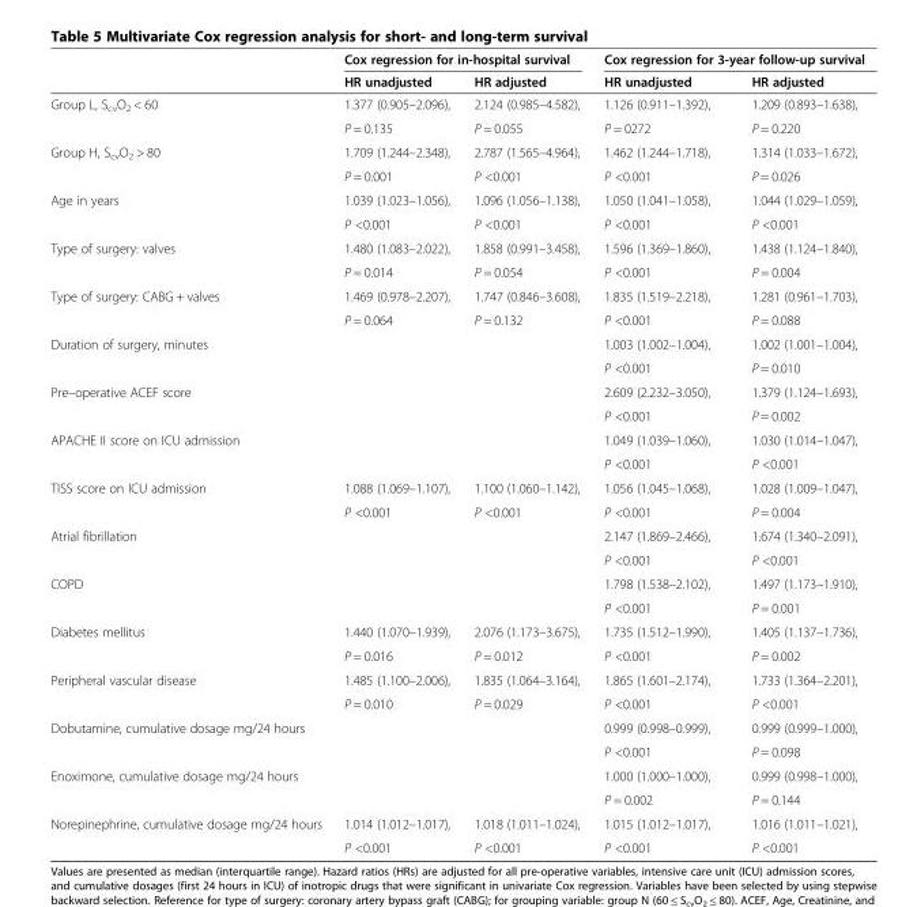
<table><thead><tr><td rowspan="2"></td><td colspan="2">Cox regression for in-hospital survival</td><td colspan="2">Cox regression for 3-year follow-up survival</td></tr><tr><td>HR unadjusted</td><td>HR adjusted</td><td>HR unadjusted</td><td>HR adjusted</td></tr></thead><tbody><tr><td rowspan="2">Group L, S<sub>cv</sub>O<sub>2</sub> &lt; 60</td><td>1.377 (0.905–2.096),</td><td>2.124 (0.985–4.582),</td><td>1.126 (0.911–1.392),</td><td>1.209 (0.893–1.638),</td></tr><tr><td>P = 0.135</td><td>P = 0.055</td><td>P = 0272</td><td>P = 0.220</td></tr><tr><td rowspan="2">Group H, S<sub>cv</sub>O<sub>2</sub> &gt; 80</td><td>1.709 (1.244–2.348),</td><td>2.787 (1.565–4.964),</td><td>1.462 (1.244–1.718),</td><td>1.314 (1.033–1.672),</td></tr><tr><td>P = 0.001</td><td>P &lt;0.001</td><td>P &lt;0.001</td><td>P = 0.026</td></tr><tr><td rowspan="2">Age in years</td><td>1.039 (1.023–1.056),</td><td>1.096 (1.056–1.138),</td><td>1.050 (1.041–1.058),</td><td>1.044 (1.029–1.059),</td></tr><tr><td>P &lt;0.001</td><td>P &lt;0.001</td><td>P &lt;0.001</td><td>P &lt;0.001</td></tr><tr><td rowspan="2">Type of surgery: valves</td><td>1.480 (1.083–2.022),</td><td>1.858 (0.991–3.458),</td><td>1.596 (1.369–1.860),</td><td>1.438 (1.124–1.840),</td></tr><tr><td>P = 0.014</td><td>P = 0.054</td><td>P &lt;0.001</td><td>P = 0.004</td></tr><tr><td rowspan="2">Type of surgery: CABG + valves</td><td>1.469 (0.978–2.207),</td><td>1.747 (0.846–3.608),</td><td>1.835 (1.519–2.218),</td><td>1.281 (0.961–1.703),</td></tr><tr><td>P = 0.064</td><td>P = 0.132</td><td>P &lt;0.001</td><td>P = 0.088</td></tr><tr><td rowspan="2">Duration of surgery, minutes</td><td rowspan="2"></td><td rowspan="2"></td><td>1.003 (1.002–1.004),</td><td>1.002 (1.001–1.004),</td></tr><tr><td>P &lt;0.001</td><td>P = 0.010</td></tr><tr><td rowspan="2">Pre–operative ACEF score</td><td rowspan="2"></td><td rowspan="2"></td><td>2.609 (2.232–3.050),</td><td>1.379 (1.124–1.693),</td></tr><tr><td>P &lt;0.001</td><td>P = 0.002</td></tr><tr><td rowspan="2">APACHE II score on ICU admission</td><td rowspan="2"></td><td rowspan="2"></td><td>1.049 (1.039–1.060),</td><td>1.030 (1.014–1.047),</td></tr><tr><td>P &lt;0.001</td><td>P &lt;0.001</td></tr><tr><td rowspan="2">TISS score on ICU admission</td><td>1.088 (1.069–1.107),</td><td>1.100 (1.060–1.142),</td><td>1.056 (1.045–1.068),</td><td>1.028 (1.009–1.047),</td></tr><tr><td>P &lt;0.001</td><td>P &lt;0.001</td><td>P &lt;0.001</td><td>P = 0.004</td></tr><tr><td rowspan="2">Atrial fibrillation</td><td rowspan="2"></td><td rowspan="2"></td><td>2.147 (1.869–2.466),</td><td>1.674 (1.340–2.091),</td></tr><tr><td>P &lt;0.001</td><td>P &lt;0.001</td></tr><tr><td rowspan="2">COPD</td><td rowspan="2"></td><td rowspan="2"></td><td>1.798 (1.538–2.102),</td><td>1.497 (1.173–1.910),</td></tr><tr><td>P &lt;0.001</td><td>P = 0.001</td></tr><tr><td rowspan="2">Diabetes mellitus</td><td>1.440 (1.070–1.939),</td><td>2.076 (1.173–3.675),</td><td>1.735 (1.512–1.990),</td><td>1.405 (1.137–1.736),</td></tr><tr><td>P = 0.016</td><td>P = 0.012</td><td>P &lt;0.001</td><td>P = 0.002</td></tr><tr><td rowspan="2">Peripheral vascular disease</td><td>1.485 (1.100–2.006),</td><td>1.835 (1.064–3.164),</td><td>1.865 (1.601–2.174),</td><td>1.733 (1.364–2.201),</td></tr><tr><td>P = 0.010</td><td>P = 0.029</td><td>P &lt;0.001</td><td>P &lt;0.001</td></tr><tr><td rowspan="2">Dobutamine, cumulative dosage mg/24 hours</td><td rowspan="2"></td><td rowspan="2"></td><td>0.999 (0.998–0.999),</td><td>0.999 (0.999–1.000),</td></tr><tr><td>P &lt;0.001</td><td>P = 0.098</td></tr><tr><td rowspan="2">Enoximone, cumulative dosage mg/24 hours</td><td rowspan="2"></td><td rowspan="2"></td><td>1.000 (1.000–1.000),</td><td>0.999 (0.998–1.000),</td></tr><tr><td>P = 0.002</td><td>P = 0.144</td></tr><tr><td rowspan="2">Norepinephrine, cumulative dosage mg/24 hours</td><td>1.014 (1.012–1.017),</td><td>1.018 (1.011–1.024),</td><td>1.015 (1.012–1.017),</td><td>1.016 (1.011–1.021),</td></tr><tr><td>P &lt;0.001</td><td>P &lt;0.001</td><td>P &lt;0.001</td><td>P &lt;0.001</td></tr></tbody></table>